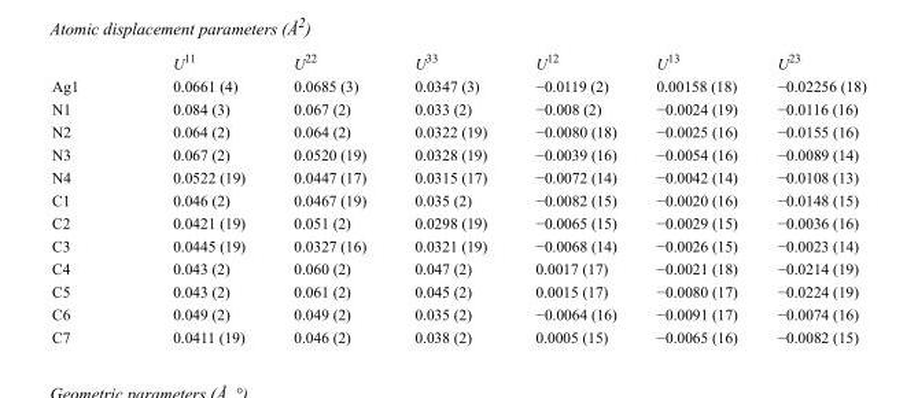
<table><thead><tr><td></td><td>U<sup>11</sup></td><td>U<sup>22</sup></td><td>U<sup>33</sup></td><td>U<sup>12</sup></td><td>U<sup>13</sup></td><td>U<sup>23</sup></td></tr></thead><tbody><tr><td>Ag1</td><td>0.0661 (4)</td><td>0.0685 (3)</td><td>0.0347 (3)</td><td>−0.0119 (2)</td><td>0.00158 (18)</td><td>−0.02256 (18)</td></tr><tr><td>N1</td><td>0.084 (3)</td><td>0.067 (2)</td><td>0.033 (2)</td><td>−0.008 (2)</td><td>−0.0024 (19)</td><td>−0.0116 (16)</td></tr><tr><td>N2</td><td>0.064 (2)</td><td>0.064 (2)</td><td>0.0322 (19)</td><td>−0.0080 (18)</td><td>−0.0025 (16)</td><td>−0.0155 (16)</td></tr><tr><td>N3</td><td>0.067 (2)</td><td>0.0520 (19)</td><td>0.0328 (19)</td><td>−0.0039 (16)</td><td>−0.0054 (16)</td><td>−0.0089 (14)</td></tr><tr><td>N4</td><td>0.0522 (19)</td><td>0.0447 (17)</td><td>0.0315 (17)</td><td>−0.0072 (14)</td><td>−0.0042 (14)</td><td>−0.0108 (13)</td></tr><tr><td>C1</td><td>0.046 (2)</td><td>0.0467 (19)</td><td>0.035 (2)</td><td>−0.0082 (15)</td><td>−0.0020 (16)</td><td>−0.0148 (15)</td></tr><tr><td>C2</td><td>0.0421 (19)</td><td>0.051 (2)</td><td>0.0298 (19)</td><td>−0.0065 (15)</td><td>−0.0029 (15)</td><td>−0.0036 (16)</td></tr><tr><td>C3</td><td>0.0445 (19)</td><td>0.0327 (16)</td><td>0.0321 (19)</td><td>−0.0068 (14)</td><td>−0.0026 (15)</td><td>−0.0023 (14)</td></tr><tr><td>C4</td><td>0.043 (2)</td><td>0.060 (2)</td><td>0.047 (2)</td><td>0.0017 (17)</td><td>−0.0021 (18)</td><td>−0.0214 (19)</td></tr><tr><td>C5</td><td>0.043 (2)</td><td>0.061 (2)</td><td>0.045 (2)</td><td>0.0015 (17)</td><td>−0.0080 (17)</td><td>−0.0224 (19)</td></tr><tr><td>C6</td><td>0.049 (2)</td><td>0.049 (2)</td><td>0.035 (2)</td><td>−0.0064 (16)</td><td>−0.0091 (17)</td><td>−0.0074 (16)</td></tr><tr><td>C7</td><td>0.0411 (19)</td><td>0.046 (2)</td><td>0.038 (2)</td><td>0.0005 (15)</td><td>−0.0065 (16)</td><td>−0.0082 (15)</td></tr></tbody></table>